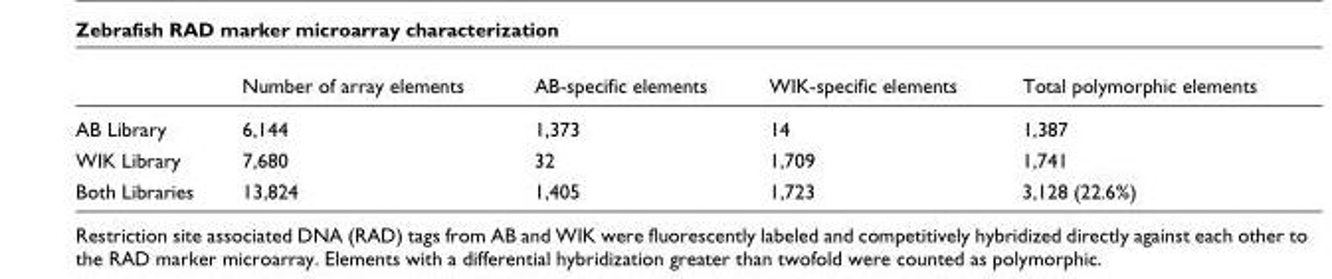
<table><thead><tr><td></td><td>Number of array elements</td><td>AB-specific elements</td><td>WIK-specific elements</td><td>Total polymorphic elements</td></tr></thead><tbody><tr><td>AB Library</td><td>6,144</td><td>1,373</td><td>14</td><td>1,387</td></tr><tr><td>WIK Library</td><td>7,680</td><td>32</td><td>1,709</td><td>1,741</td></tr><tr><td>Both Libraries</td><td>13,824</td><td>1,405</td><td>1,723</td><td>3,128 (22.6%)</td></tr></tbody></table>